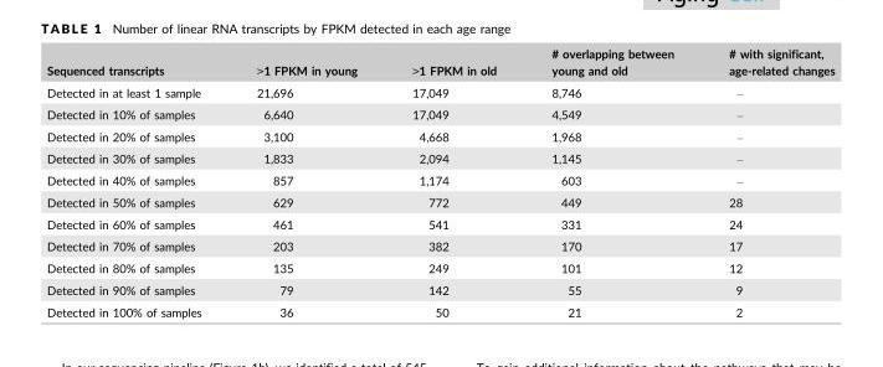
<table><thead><tr><td>Sequenced transcripts</td><td>&gt;1 FPKM in young</td><td>&gt;1 FPKM in old</td><td># overlapping between young and old</td><td># with significant, age-related changes</td></tr></thead><tbody><tr><td>Detected in at least 1 sample</td><td>21,696</td><td>17,049</td><td>8,746</td><td>–</td></tr><tr><td>Detected in 10% of samples</td><td>6,640</td><td>17,049</td><td>4,549</td><td>–</td></tr><tr><td>Detected in 20% of samples</td><td>3,100</td><td>4,668</td><td>1,968</td><td>–</td></tr><tr><td>Detected in 30% of samples</td><td>1,833</td><td>2,094</td><td>1,145</td><td>–</td></tr><tr><td>Detected in 40% of samples</td><td>857</td><td>1,174</td><td>603</td><td>–</td></tr><tr><td>Detected in 50% of samples</td><td>629</td><td>772</td><td>449</td><td>28</td></tr><tr><td>Detected in 60% of samples</td><td>461</td><td>541</td><td>331</td><td>24</td></tr><tr><td>Detected in 70% of samples</td><td>203</td><td>382</td><td>170</td><td>17</td></tr><tr><td>Detected in 80% of samples</td><td>135</td><td>249</td><td>101</td><td>12</td></tr><tr><td>Detected in 90% of samples</td><td>79</td><td>142</td><td>55</td><td>9</td></tr><tr><td>Detected in 100% of samples</td><td>36</td><td>50</td><td>21</td><td>2</td></tr></tbody></table>